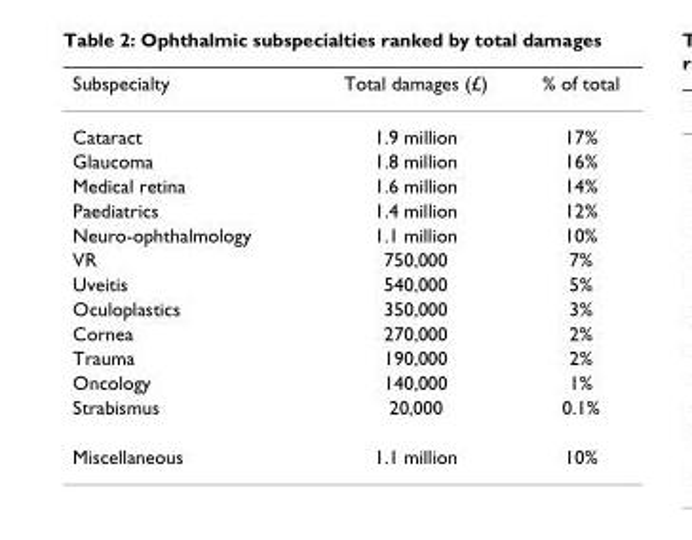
<table><thead><tr><td>Subspecialty</td><td>Total damages (£)</td><td>% of total</td></tr></thead><tbody><tr><td>Cataract</td><td>1.9 million</td><td>17%</td></tr><tr><td>Glaucoma</td><td>1.8 million</td><td>16%</td></tr><tr><td>Medical retina</td><td>1.6 million</td><td>14%</td></tr><tr><td>Paediatrics</td><td>1.4 million</td><td>12%</td></tr><tr><td>Neuro-ophthalmology</td><td>1.1 million</td><td>10%</td></tr><tr><td>VR</td><td>750,000</td><td>7%</td></tr><tr><td>Uveitis</td><td>540,000</td><td>5%</td></tr><tr><td>Oculoplastics</td><td>350,000</td><td>3%</td></tr><tr><td>Cornea</td><td>270,000</td><td>2%</td></tr><tr><td>Trauma</td><td>190,000</td><td>2%</td></tr><tr><td>Oncology</td><td>140,000</td><td>1%</td></tr><tr><td>Strabismus</td><td>20,000</td><td>0.1%</td></tr><tr><td>Miscellaneous</td><td>1.1 million</td><td>10%</td></tr></tbody></table>